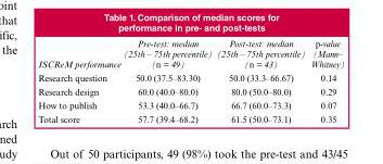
<table><thead><tr><td>ISCReM performance</td><td>Pre-test: median (25th – 75th percentile) (n = 49)</td><td>Post-test: median (25th – 75th percentile) (n = 43)</td><td>p-value (Mann– Whitney)</td></tr></thead><tbody><tr><td>Research question</td><td>50.0 (37.5–83.30)</td><td>50.0 (33.3–66.67)</td><td>0.14</td></tr><tr><td>Research design</td><td>60.0 (40.0–80.0)</td><td>80.0 (50.0–80.0)</td><td>0.29</td></tr><tr><td>How to publish</td><td>53.3 (40.0–66.7)</td><td>66.7 (60.0–73.3)</td><td>0.07</td></tr><tr><td>Total score</td><td>57.7 (39.4–68.2)</td><td>61.5 (50.0–73.1)</td><td>0.35</td></tr></tbody></table>